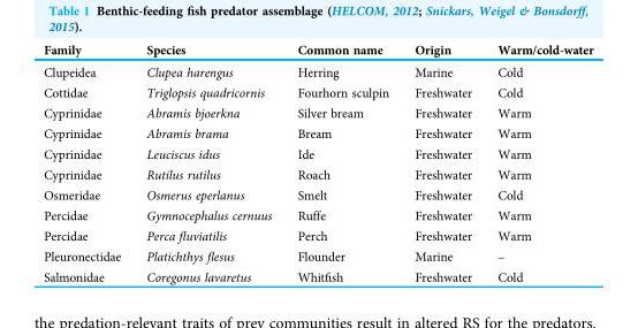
<table><thead><tr><td>Family</td><td>Species</td><td>Common name</td><td>Origin</td><td>Warm/cold-water</td></tr></thead><tbody><tr><td>Clupeidea</td><td>Clupea harengus</td><td>Herring</td><td>Marine</td><td>Cold</td></tr><tr><td>Cottidae</td><td>Triglopsis quadricornis</td><td>Fourhorn sculpin</td><td>Freshwater</td><td>Cold</td></tr><tr><td>Cyprinidae</td><td>Abramis bjoerkna</td><td>Silver bream</td><td>Freshwater</td><td>Warm</td></tr><tr><td>Cyprinidae</td><td>Abramis brama</td><td>Bream</td><td>Freshwater</td><td>Warm</td></tr><tr><td>Cyprinidae</td><td>Leuciscus idus</td><td>Ide</td><td>Freshwater</td><td>Warm</td></tr><tr><td>Cyprinidae</td><td>Rutilus rutilus</td><td>Roach</td><td>Freshwater</td><td>Warm</td></tr><tr><td>Osmeridae</td><td>Osmerus eperlanus</td><td>Smelt</td><td>Freshwater</td><td>Cold</td></tr><tr><td>Percidae</td><td>Gymnocephalus cernuus</td><td>Ruffe</td><td>Freshwater</td><td>Warm</td></tr><tr><td>Percidae</td><td>Perca fluviatilis</td><td>Perch</td><td>Freshwater</td><td>Warm</td></tr><tr><td>Pleuronectidae</td><td>Platichthys flesus</td><td>Flounder</td><td>Marine</td><td>–</td></tr><tr><td>Salmonidae</td><td>Coregonus lavaretus</td><td>Whitfish</td><td>Freshwater</td><td>Cold</td></tr></tbody></table>